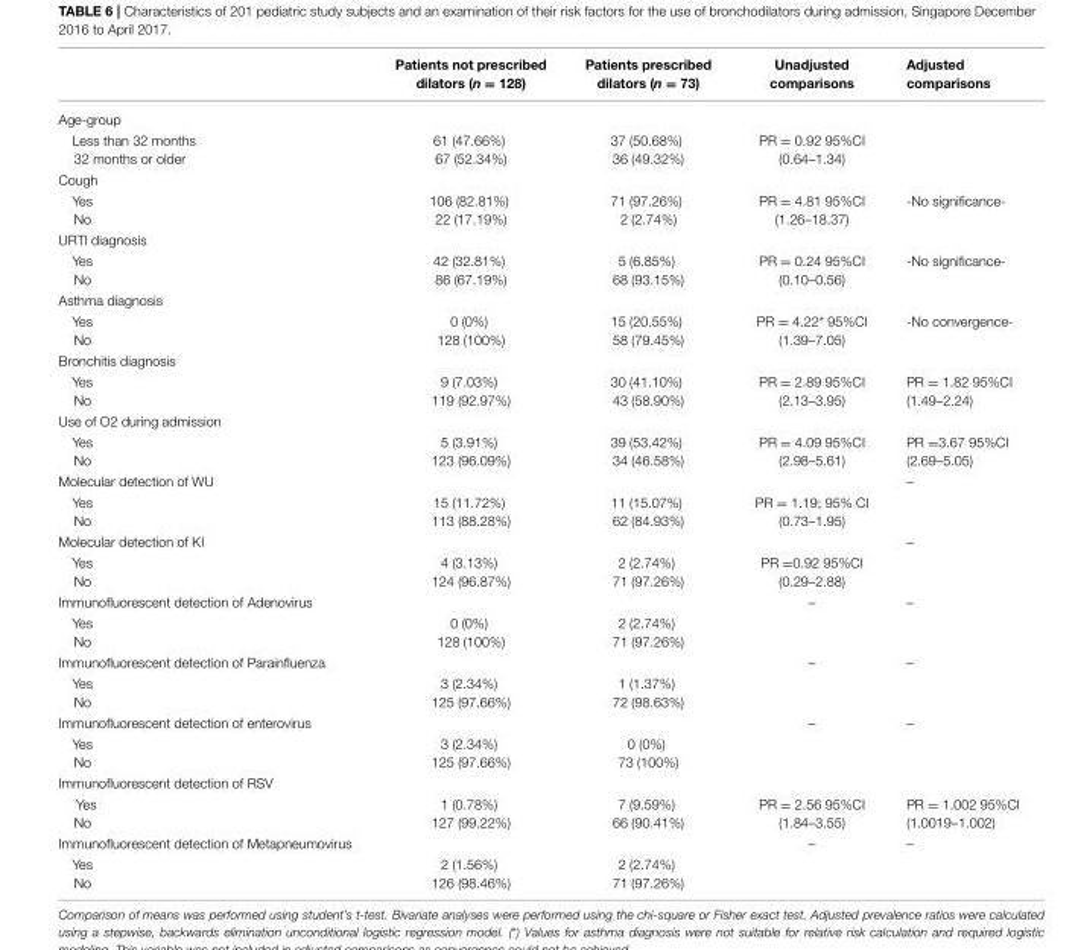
<table><thead><tr><td></td><td>Patients not prescribed dilators (n = 128)</td><td>Patients prescribed dilators (n = 73)</td><td>Unadjusted comparisons</td><td>Adjusted comparisons</td></tr></thead><tbody><tr><td colspan="5">Age-group</td></tr><tr><td>Less than 32 months 32 months or older</td><td>61 (47.66%) 67 (52.34%)</td><td>37 (50.68%) 36 (49.32%)</td><td>PR = 0.92 95%CI (0.64–1.34)</td><td></td></tr><tr><td colspan="5">Cough</td></tr><tr><td>Yes No</td><td>106 (82.81%) 22 (17.19%)</td><td>71 (97.26%) 2 (2.74%)</td><td>PR = 4.81 95%CI (1.26–18.37)</td><td>-No significance-</td></tr><tr><td colspan="5">URTI diagnosis</td></tr><tr><td>Yes No</td><td>42 (32.81%) 86 (67.19%)</td><td>5 (6.85%) 68 (93.15%)</td><td>PR = 0.24 95%CI (0.10–0.56)</td><td>-No significance-</td></tr><tr><td colspan="5">Asthma diagnosis</td></tr><tr><td>Yes No</td><td>0 (0%) 128 (100%)</td><td>15 (20.55%) 58 (79.45%)</td><td>PR = 4.22* 95%CI (1.39–7.05)</td><td>-No convergence-</td></tr><tr><td colspan="5">Bronchitis diagnosis</td></tr><tr><td>Yes No</td><td>9 (7.03%) 119 (92.97%)</td><td>30 (41.10%) 43 (58.90%)</td><td>PR = 2.89 95%CI (2.13–3.95)</td><td>PR = 1.82 95%CI (1.49–2.24)</td></tr><tr><td colspan="5">Use of O2 during admission</td></tr><tr><td>Yes No</td><td>5 (3.91%) 123 (96.09%)</td><td>39 (53.42%) 34 (46.58%)</td><td>PR = 4.09 95%CI (2.98–5.61)</td><td>PR =3.67 95%CI (2.69–5.05)</td></tr><tr><td>Molecular detection of WU</td><td></td><td></td><td></td><td>–</td></tr><tr><td>Yes No</td><td>15 (11.72%) 113 (88.28%)</td><td>11 (15.07%) 62 (84.93%)</td><td>PR = 1.19; 95% CI (0.73–1.95)</td><td></td></tr><tr><td>Molecular detection of KI</td><td></td><td></td><td></td><td>–</td></tr><tr><td>Yes No</td><td>4 (3.13%) 124 (96.87%)</td><td>2 (2.74%) 71 (97.26%)</td><td>PR =0.92 95%CI (0.29–2.88)</td><td></td></tr><tr><td>Immunofluorescent detection of Adenovirus</td><td></td><td></td><td>–</td><td>–</td></tr><tr><td>Yes No</td><td>0 (0%) 128 (100%)</td><td>2 (2.74%) 71 (97.26%)</td><td></td><td></td></tr><tr><td>Immunofluorescent detection of Parainfluenza</td><td></td><td></td><td>–</td><td>–</td></tr><tr><td>Yes No</td><td>3 (2.34%) 125 (97.66%)</td><td>1 (1.37%) 72 (98.63%)</td><td></td><td></td></tr><tr><td>Immunofluorescent detection of enterovirus</td><td></td><td></td><td>–</td><td>–</td></tr><tr><td>Yes No</td><td>3 (2.34%) 125 (97.66%)</td><td>0 (0%) 73 (100%)</td><td></td><td></td></tr><tr><td colspan="5">Immunofluorescent detection of RSV</td></tr><tr><td>Yes No</td><td>1 (0.78%) 127 (99.22%)</td><td>7 (9.59%) 66 (90.41%)</td><td>PR = 2.56 95%CI (1.84–3.55)</td><td>PR = 1.002 95%CI (1.0019–1.002)</td></tr><tr><td>Immunofluorescent detection of Metapneumovirus</td><td></td><td></td><td>–</td><td>–</td></tr><tr><td>Yes No</td><td>2 (1.56%) 126 (98.46%)</td><td>2 (2.74%) 71 (97.26%)</td><td></td><td></td></tr></tbody></table>